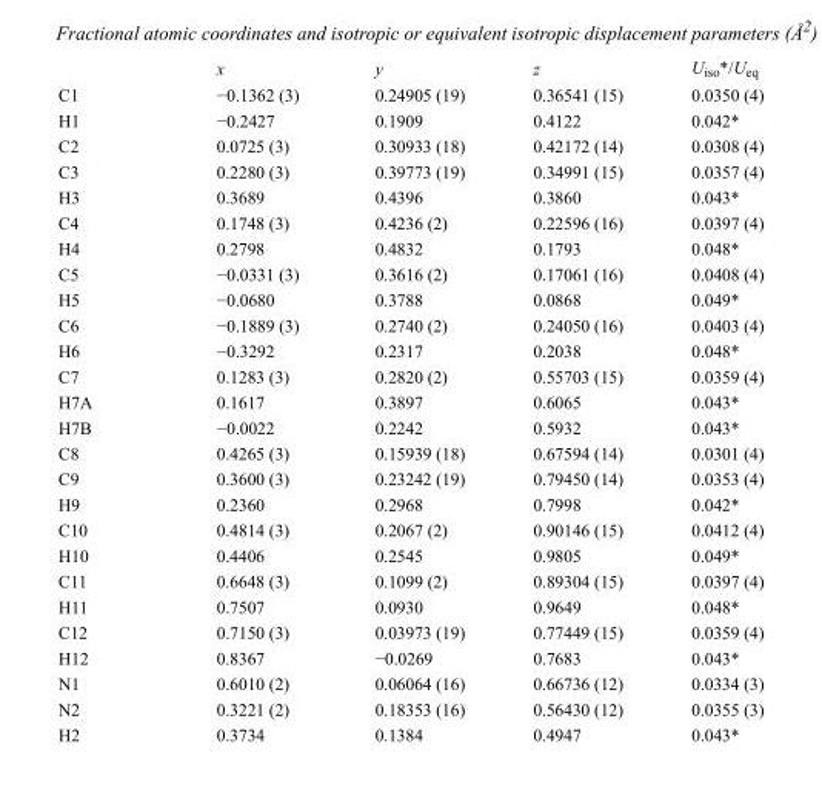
<table><thead><tr><td></td><td>x</td><td>y</td><td>z</td><td>U<sub>iso</sub>*/U<sub>eq</sub></td></tr></thead><tbody><tr><td>C1</td><td>−0.1362 (3)</td><td>0.24905 (19)</td><td>0.36541 (15)</td><td>0.0350 (4)</td></tr><tr><td>H1</td><td>−0.2427</td><td>0.1909</td><td>0.4122</td><td>0.042*</td></tr><tr><td>C2</td><td>0.0725 (3)</td><td>0.30933 (18)</td><td>0.42172 (14)</td><td>0.0308 (4)</td></tr><tr><td>C3</td><td>0.2280 (3)</td><td>0.39773 (19)</td><td>0.34991 (15)</td><td>0.0357 (4)</td></tr><tr><td>H3</td><td>0.3689</td><td>0.4396</td><td>0.3860</td><td>0.043*</td></tr><tr><td>C4</td><td>0.1748 (3)</td><td>0.4236 (2)</td><td>0.22596 (16)</td><td>0.0397 (4)</td></tr><tr><td>H4</td><td>0.2798</td><td>0.4832</td><td>0.1793</td><td>0.048*</td></tr><tr><td>C5</td><td>−0.0331 (3)</td><td>0.3616 (2)</td><td>0.17061 (16)</td><td>0.0408 (4)</td></tr><tr><td>H5</td><td>−0.0680</td><td>0.3788</td><td>0.0868</td><td>0.049*</td></tr><tr><td>C6</td><td>−0.1889 (3)</td><td>0.2740 (2)</td><td>0.24050 (16)</td><td>0.0403 (4)</td></tr><tr><td>H6</td><td>−0.3292</td><td>0.2317</td><td>0.2038</td><td>0.048*</td></tr><tr><td>C7</td><td>0.1283 (3)</td><td>0.2820 (2)</td><td>0.55703 (15)</td><td>0.0359 (4)</td></tr><tr><td>H7A</td><td>0.1617</td><td>0.3897</td><td>0.6065</td><td>0.043*</td></tr><tr><td>H7B</td><td>−0.0022</td><td>0.2242</td><td>0.5932</td><td>0.043*</td></tr><tr><td>C8</td><td>0.4265 (3)</td><td>0.15939 (18)</td><td>0.67594 (14)</td><td>0.0301 (4)</td></tr><tr><td>C9</td><td>0.3600 (3)</td><td>0.23242 (19)</td><td>0.79450 (14)</td><td>0.0353 (4)</td></tr><tr><td>H9</td><td>0.2360</td><td>0.2968</td><td>0.7998</td><td>0.042*</td></tr><tr><td>C10</td><td>0.4814 (3)</td><td>0.2067 (2)</td><td>0.90146 (15)</td><td>0.0412 (4)</td></tr><tr><td>H10</td><td>0.4406</td><td>0.2545</td><td>0.9805</td><td>0.049*</td></tr><tr><td>C11</td><td>0.6648 (3)</td><td>0.1099 (2)</td><td>0.89304 (15)</td><td>0.0397 (4)</td></tr><tr><td>H11</td><td>0.7507</td><td>0.0930</td><td>0.9649</td><td>0.048*</td></tr><tr><td>C12</td><td>0.7150 (3)</td><td>0.03973 (19)</td><td>0.77449 (15)</td><td>0.0359 (4)</td></tr><tr><td>H12</td><td>0.8367</td><td>−0.0269</td><td>0.7683</td><td>0.043*</td></tr><tr><td>N1</td><td>0.6010 (2)</td><td>0.06064 (16)</td><td>0.66736 (12)</td><td>0.0334 (3)</td></tr><tr><td>N2</td><td>0.3221 (2)</td><td>0.18353 (16)</td><td>0.56430 (12)</td><td>0.0355 (3)</td></tr><tr><td>H2</td><td>0.3734</td><td>0.1384</td><td>0.4947</td><td>0.043*</td></tr></tbody></table>